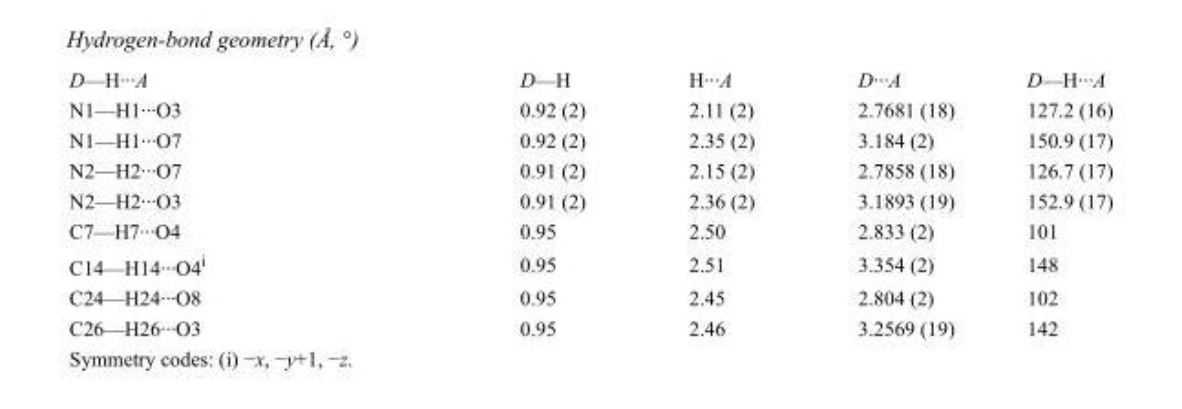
<table><tbody><tr><td>D—H···A</td><td>D—H</td><td>H···A</td><td>D···A</td><td>D—H···A</td></tr><tr><td>N1—H1···O3</td><td>0.92 (2)</td><td>2.11 (2)</td><td>2.7681 (18)</td><td>127.2 (16)</td></tr><tr><td>N1—H1···O7</td><td>0.92 (2)</td><td>2.35 (2)</td><td>3.184 (2)</td><td>150.9 (17)</td></tr><tr><td>N2—H2···O7</td><td>0.91 (2)</td><td>2.15 (2)</td><td>2.7858 (18)</td><td>126.7 (17)</td></tr><tr><td>N2—H2···O3</td><td>0.91 (2)</td><td>2.36 (2)</td><td>3.1893 (19)</td><td>152.9 (17)</td></tr><tr><td>C7—H7···O4</td><td>0.95</td><td>2.50</td><td>2.833 (2)</td><td>101</td></tr><tr><td>C14—H14···O4<sup>i</sup></td><td>0.95</td><td>2.51</td><td>3.354 (2)</td><td>148</td></tr><tr><td>C24—H24···O8</td><td>0.95</td><td>2.45</td><td>2.804 (2)</td><td>102</td></tr><tr><td>C26—H26···O3</td><td>0.95</td><td>2.46</td><td>3.2569 (19)</td><td>142</td></tr></tbody></table>